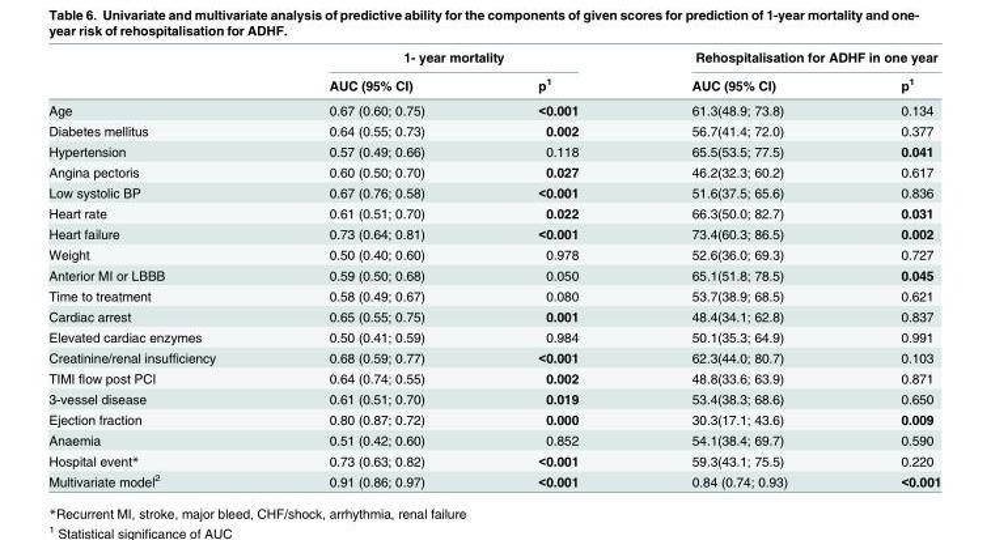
<table><thead><tr><td rowspan="2"></td><td colspan="2">1- year mortality</td><td colspan="2">Rehospitalisation for ADHF in one year</td></tr><tr><td>AUC (95% CI)</td><td>p<sup>1</sup></td><td>AUC (95% CI)</td><td>p<sup>1</sup></td></tr></thead><tbody><tr><td>Age</td><td>0.67 (0.60; 0.75)</td><td>&lt;0.001</td><td>61.3(48.9; 73.8)</td><td>0.134</td></tr><tr><td>Diabetes mellitus</td><td>0.64 (0.55; 0.73)</td><td>0.002</td><td>56.7(41.4; 72.0)</td><td>0.377</td></tr><tr><td>Hypertension</td><td>0.57 (0.49; 0.66)</td><td>0.118</td><td>65.5(53.5; 77.5)</td><td>0.041</td></tr><tr><td>Angina pectoris</td><td>0.60 (0.50; 0.70)</td><td>0.027</td><td>46.2(32.3; 60.2)</td><td>0.617</td></tr><tr><td>Low systolic BP</td><td>0.67 (0.76; 0.58)</td><td>&lt;0.001</td><td>51.6(37.5; 65.6)</td><td>0.836</td></tr><tr><td>Heart rate</td><td>0.61 (0.51; 0.70)</td><td>0.022</td><td>66.3(50.0; 82.7)</td><td>0.031</td></tr><tr><td>Heart failure</td><td>0.73 (0.64; 0.81)</td><td>&lt;0.001</td><td>73.4(60.3; 86.5)</td><td>0.002</td></tr><tr><td>Weight</td><td>0.50 (0.40; 0.60)</td><td>0.978</td><td>52.6(36.0; 69.3)</td><td>0.727</td></tr><tr><td>Anterior MI or LBBB</td><td>0.59 (0.50; 0.68)</td><td>0.050</td><td>65.1(51.8; 78.5)</td><td>0.045</td></tr><tr><td>Time to treatment</td><td>0.58 (0.49; 0.67)</td><td>0.080</td><td>53.7(38.9; 68.5)</td><td>0.621</td></tr><tr><td>Cardiac arrest</td><td>0.65 (0.55; 0.75)</td><td>0.001</td><td>48.4(34.1; 62.8)</td><td>0.837</td></tr><tr><td>Elevated cardiac enzymes</td><td>0.50 (0.41; 0.59)</td><td>0.984</td><td>50.1(35.3; 64.9)</td><td>0.991</td></tr><tr><td>Creatinine/renal insufficiency</td><td>0.68 (0.59; 0.77)</td><td>&lt;0.001</td><td>62.3(44.0; 80.7)</td><td>0.103</td></tr><tr><td>TIMI flow post PCI</td><td>0.64 (0.74; 0.55)</td><td>0.002</td><td>48.8(33.6; 63.9)</td><td>0.871</td></tr><tr><td>3-vessel disease</td><td>0.61 (0.51; 0.70)</td><td>0.019</td><td>53.4(38.3; 68.6)</td><td>0.650</td></tr><tr><td>Ejection fraction</td><td>0.80 (0.87; 0.72)</td><td>0.000</td><td>30.3(17.1; 43.6)</td><td>0.009</td></tr><tr><td>Anaemia</td><td>0.51 (0.42; 0.60)</td><td>0.852</td><td>54.1(38.4; 69.7)</td><td>0.590</td></tr><tr><td>Hospital event*</td><td>0.73 (0.63; 0.82)</td><td>&lt;0.001</td><td>59.3(43.1; 75.5)</td><td>0.220</td></tr><tr><td>Multivariate model<sup>2</sup></td><td>0.91 (0.86; 0.97)</td><td>&lt;0.001</td><td>0.84 (0.74; 0.93)</td><td>&lt;0.001</td></tr></tbody></table>